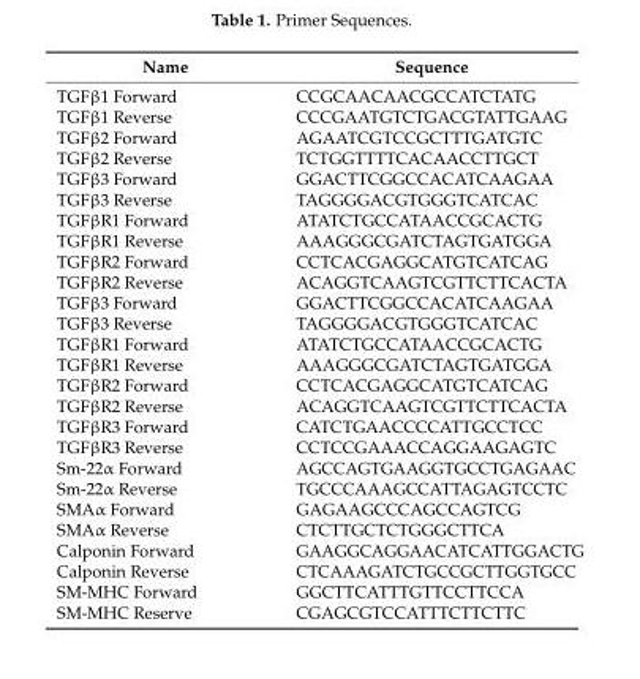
<table><thead><tr><td>Name</td><td>Sequence</td></tr></thead><tbody><tr><td>TGFβ1 Forward</td><td>CCGCAACAACGCCATCTATG</td></tr><tr><td>TGFβ1 Reverse</td><td>CCCGAATGTCTGACGTATTGAAG</td></tr><tr><td>TGFβ2 Forward</td><td>AGAATCGTCCGCTTTGATGTC</td></tr><tr><td>TGFβ2 Reverse</td><td>TCTGGTTTTCACAACCTTGCT</td></tr><tr><td>TGFβ3 Forward</td><td>GGACTTCGGCCACATCAAGAA</td></tr><tr><td>TGFβ3 Reverse</td><td>TAGGGGACGTGGGTCATCAC</td></tr><tr><td>TGFβR1 Forward</td><td>ATATCTGCCATAACCGCACTG</td></tr><tr><td>TGFβR1 Reverse</td><td>AAAGGGCGATCTAGTGATGGA</td></tr><tr><td>TGFβR2 Forward</td><td>CCTCACGAGGCATGTCATCAG</td></tr><tr><td>TGFβR2 Reverse</td><td>ACAGGTCAAGTCGTTCTTCACTA</td></tr><tr><td>TGFβ3 Forward</td><td>GGACTTCGGCCACATCAAGAA</td></tr><tr><td>TGFβ3 Reverse</td><td>TAGGGGACGTGGGTCATCAC</td></tr><tr><td>TGFβR1 Forward</td><td>ATATCTGCCATAACCGCACTG</td></tr><tr><td>TGFβR1 Reverse</td><td>AAAGGGCGATCTAGTGATGGA</td></tr><tr><td>TGFβR2 Forward</td><td>CCTCACGAGGCATGTCATCAG</td></tr><tr><td>TGFβR2 Reverse</td><td>ACAGGTCAAGTCGTTCTTCACTA</td></tr><tr><td>TGFβR3 Forward</td><td>CATCTGAACCCCATTGCCTCC</td></tr><tr><td>TGFβR3 Reverse</td><td>CCTCCGAAACCAGGAAGAGTC</td></tr><tr><td>Sm-22α Forward</td><td>AGCCAGTGAAGGTGCCTGAGAAC</td></tr><tr><td>Sm-22α Reverse</td><td>TGCCCAAAGCCATTAGAGTCCTC</td></tr><tr><td>SMAα Forward</td><td>GAGAAGCCCAGCCAGTCG</td></tr><tr><td>SMAα Reverse</td><td>CTCTTGCTCTGGGCTTCA</td></tr><tr><td>Calponin Forward</td><td>GAAGGCAGGAACATCATTGGACTG</td></tr><tr><td>Calponin Reverse</td><td>CTCAAAGATCTGCCGCTTGGTGCC</td></tr><tr><td>SM-MHC Forward</td><td>GGCTTCATTTGTTCCTTCCA</td></tr><tr><td>SM-MHC Reserve</td><td>CGAGCGTCCATTTCTTCTTC</td></tr></tbody></table>